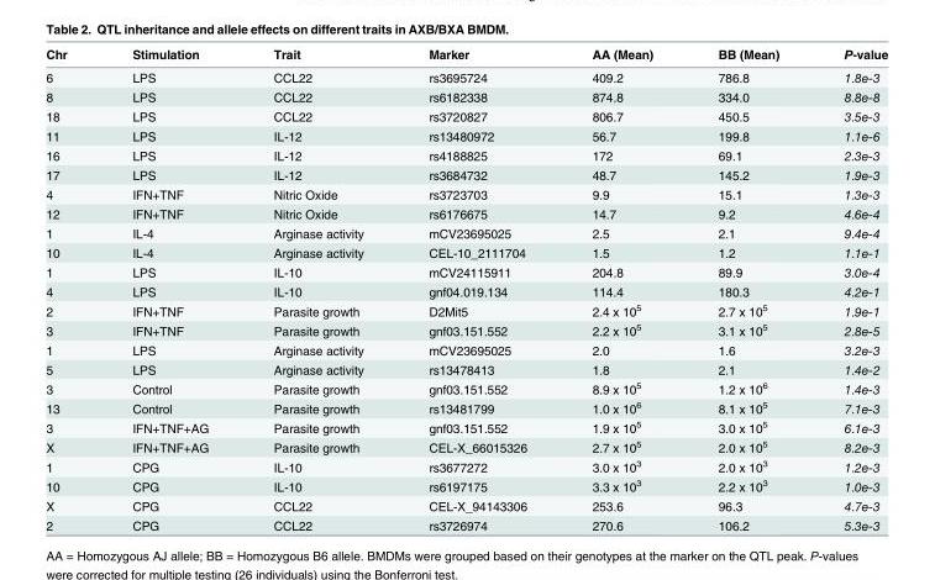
<table><thead><tr><td>Chr</td><td>Stimulation</td><td>Trait</td><td>Marker</td><td>AA (Mean)</td><td>BB (Mean)</td><td>P-value</td></tr></thead><tbody><tr><td>6</td><td>LPS</td><td>CCL22</td><td>rs3695724</td><td>409.2</td><td>786.8</td><td>1.8e-3</td></tr><tr><td>8</td><td>LPS</td><td>CCL22</td><td>rs6182338</td><td>874.8</td><td>334.0</td><td>8.8e-8</td></tr><tr><td>18</td><td>LPS</td><td>CCL22</td><td>rs3720827</td><td>806.7</td><td>450.5</td><td>3.5e-3</td></tr><tr><td>11</td><td>LPS</td><td>IL-12</td><td>rs13480972</td><td>56.7</td><td>199.8</td><td>1.1e-6</td></tr><tr><td>16</td><td>LPS</td><td>IL-12</td><td>rs4188825</td><td>172</td><td>69.1</td><td>2.3e-3</td></tr><tr><td>17</td><td>LPS</td><td>IL-12</td><td>rs3684732</td><td>48.7</td><td>145.2</td><td>1.9e-3</td></tr><tr><td>4</td><td>IFN+TNF</td><td>Nitric Oxide</td><td>rs3723703</td><td>9.9</td><td>15.1</td><td>1.3e-3</td></tr><tr><td>12</td><td>IFN+TNF</td><td>Nitric Oxide</td><td>rs6176675</td><td>14.7</td><td>9.2</td><td>4.6e-4</td></tr><tr><td>1</td><td>IL-4</td><td>Arginase activity</td><td>mCV23695025</td><td>2.5</td><td>2.1</td><td>9.4e-4</td></tr><tr><td>10</td><td>IL-4</td><td>Arginase activity</td><td>CEL-10_2111704</td><td>1.5</td><td>1.2</td><td>1.1e-1</td></tr><tr><td>1</td><td>LPS</td><td>IL-10</td><td>mCV24115911</td><td>204.8</td><td>89.9</td><td>3.0e-4</td></tr><tr><td>4</td><td>LPS</td><td>IL-10</td><td>gnf04.019.134</td><td>114.4</td><td>180.3</td><td>4.2e-1</td></tr><tr><td>2</td><td>IFN+TNF</td><td>Parasite growth</td><td>D2Mit5</td><td>2.4 x 10<sup>5</sup></td><td>2.7 x 10<sup>5</sup></td><td>1.9e-1</td></tr><tr><td>3</td><td>IFN+TNF</td><td>Parasite growth</td><td>gnf03.151.552</td><td>2.2 x 10<sup>5</sup></td><td>3.1 x 10<sup>5</sup></td><td>2.8e-5</td></tr><tr><td>1</td><td>LPS</td><td>Arginase activity</td><td>mCV23695025</td><td>2.0</td><td>1.6</td><td>3.2e-3</td></tr><tr><td>5</td><td>LPS</td><td>Arginase activity</td><td>rs13478413</td><td>1.8</td><td>2.1</td><td>1.4e-2</td></tr><tr><td>3</td><td>Control</td><td>Parasite growth</td><td>gnf03.151.552</td><td>8.9 x 10<sup>5</sup></td><td>1.2 x 10<sup>6</sup></td><td>1.4e-3</td></tr><tr><td>13</td><td>Control</td><td>Parasite growth</td><td>rs13481799</td><td>1.0 x 10<sup>6</sup></td><td>8.1 x 10<sup>5</sup></td><td>7.1e-3</td></tr><tr><td>3</td><td>IFN+TNF+AG</td><td>Parasite growth</td><td>gnf03.151.552</td><td>1.9 x 10<sup>5</sup></td><td>3.0 x 10<sup>5</sup></td><td>6.1e-3</td></tr><tr><td>X</td><td>IFN+TNF+AG</td><td>Parasite growth</td><td>CEL-X_66015326</td><td>2.7 x 10<sup>5</sup></td><td>2.0 x 10<sup>5</sup></td><td>8.2e-3</td></tr><tr><td>1</td><td>CPG</td><td>IL-10</td><td>rs3677272</td><td>3.0 x 10<sup>3</sup></td><td>2.0 x 10<sup>3</sup></td><td>1.2e-3</td></tr><tr><td>10</td><td>CPG</td><td>IL-10</td><td>rs6197175</td><td>3.3 x 10<sup>3</sup></td><td>2.2 x 10<sup>3</sup></td><td>1.0e-3</td></tr><tr><td>X</td><td>CPG</td><td>CCL22</td><td>CEL-X_94143306</td><td>253.6</td><td>96.3</td><td>4.7e-3</td></tr><tr><td>2</td><td>CPG</td><td>CCL22</td><td>rs3726974</td><td>270.6</td><td>106.2</td><td>5.3e-3</td></tr></tbody></table>